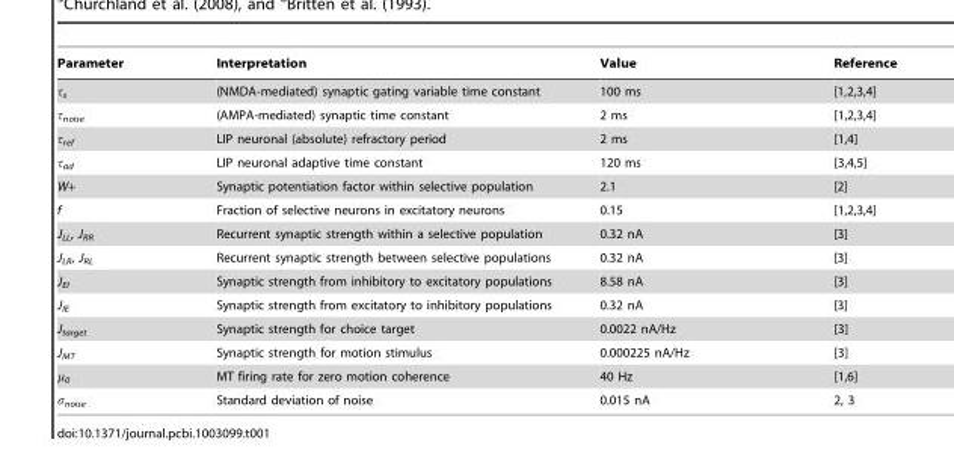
<table><thead><tr><td>Parameter</td><td>Interpretation</td><td>Value</td><td>Reference</td></tr></thead><tbody><tr><td>τ<sub>s</sub></td><td>(NMDA-mediated) synaptic gating variable time constant</td><td>100 ms</td><td>[1,2,3,4]</td></tr><tr><td>τ<sub>noise</sub></td><td>(AMPA-mediated) synaptic time constant</td><td>2 ms</td><td>[1,2,3,4]</td></tr><tr><td>τ<sub>ref</sub></td><td>LIP neuronal (absolute) refractory period</td><td>2 ms</td><td>[1,4]</td></tr><tr><td>τ<sub>ad</sub></td><td>LIP neuronal adaptive time constant</td><td>120 ms</td><td>[3,4,5]</td></tr><tr><td>W+</td><td>Synaptic potentiation factor within selective population</td><td>2.1</td><td>[2]</td></tr><tr><td>f</td><td>Fraction of selective neurons in excitatory neurons</td><td>0.15</td><td>[1,2,3,4]</td></tr><tr><td>J<sub>LL</sub>, J<sub>RR</sub></td><td>Recurrent synaptic strength within a selective population</td><td>0.32 nA</td><td>[3]</td></tr><tr><td>J<sub>LR</sub>, J<sub>RL</sub></td><td>Recurrent synaptic strength between selective populations</td><td>0.32 nA</td><td>[3]</td></tr><tr><td>J<sub>EI</sub></td><td>Synaptic strength from inhibitory to excitatory populations</td><td>8.58 nA</td><td>[3]</td></tr><tr><td>J<sub>IE</sub></td><td>Synaptic strength from excitatory to inhibitory populations</td><td>0.32 nA</td><td>[3]</td></tr><tr><td>J<sub>target</sub></td><td>Synaptic strength for choice target</td><td>0.0022 nA/Hz</td><td>[3]</td></tr><tr><td>J<sub>MT</sub></td><td>Synaptic strength for motion stimulus</td><td>0.000225 nA/Hz</td><td>[3]</td></tr><tr><td>μ<sub>0</sub></td><td>MT firing rate for zero motion coherence</td><td>40 Hz</td><td>[1,6]</td></tr><tr><td>σ<sub>noise</sub></td><td>Standard deviation of noise</td><td>0.015 nA</td><td>2, 3</td></tr></tbody></table>